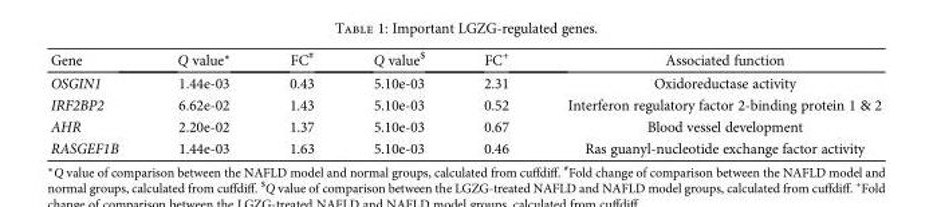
<table><thead><tr><td>Gene</td><td>Q value∗</td><td>FC<sup>#</sup></td><td>Q value<sup>$</sup></td><td>FC<sup>+</sup></td><td>Associated function</td></tr></thead><tbody><tr><td>OSGIN1</td><td>1.44e-03</td><td>0.43</td><td>5.10e-03</td><td>2.31</td><td>Oxidoreductase activity</td></tr><tr><td>IRF2BP2</td><td>6.62e-02</td><td>1.43</td><td>5.10e-03</td><td>0.52</td><td>Interferon regulatory factor 2-binding protein 1 &amp; 2</td></tr><tr><td>AHR</td><td>2.20e-02</td><td>1.37</td><td>5.10e-03</td><td>0.67</td><td>Blood vessel development</td></tr><tr><td>RASGEF1B</td><td>1.44e-03</td><td>1.63</td><td>5.10e-03</td><td>0.46</td><td>Ras guanyl-nucleotide exchange factor activity</td></tr></tbody></table>